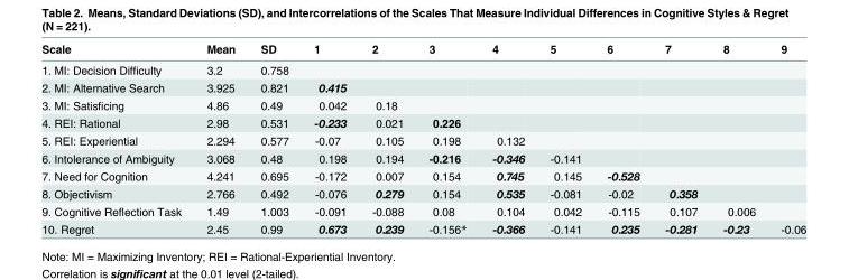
<table><thead><tr><td>Scale</td><td>Mean</td><td>SD</td><td>1</td><td>2</td><td>3</td><td>4</td><td>5</td><td>6</td><td>7</td><td>8</td><td>9</td></tr></thead><tbody><tr><td>1. MI: Decision Difficulty</td><td>3.2</td><td>0.758</td><td></td><td></td><td></td><td></td><td></td><td></td><td></td><td></td><td></td></tr><tr><td>2. MI: Alternative Search</td><td>3.925</td><td>0.821</td><td>0.415</td><td></td><td></td><td></td><td></td><td></td><td></td><td></td><td></td></tr><tr><td>3. MI: Satisficing</td><td>4.86</td><td>0.49</td><td>0.042</td><td>0.18</td><td></td><td></td><td></td><td></td><td></td><td></td><td></td></tr><tr><td>4. REI: Rational</td><td>2.98</td><td>0.531</td><td>-0.233</td><td>0.021</td><td>0.226</td><td></td><td></td><td></td><td></td><td></td><td></td></tr><tr><td>5. REI: Experiential</td><td>2.294</td><td>0.577</td><td>-0.07</td><td>0.105</td><td>0.198</td><td>0.132</td><td></td><td></td><td></td><td></td><td></td></tr><tr><td>6. Intolerance of Ambiguity</td><td>3.068</td><td>0.48</td><td>0.198</td><td>0.194</td><td>-0.216</td><td>-0.346</td><td>-0.141</td><td></td><td></td><td></td><td></td></tr><tr><td>7. Need for Cognition</td><td>4.241</td><td>0.695</td><td>-0.172</td><td>0.007</td><td>0.154</td><td>0.745</td><td>0.145</td><td>-0.528</td><td></td><td></td><td></td></tr><tr><td>8. Objectivism</td><td>2.766</td><td>0.492</td><td>-0.076</td><td>0.279</td><td>0.154</td><td>0.535</td><td>-0.081</td><td>-0.02</td><td>0.358</td><td></td><td></td></tr><tr><td>9. Cognitive Reflection Task</td><td>1.49</td><td>1.003</td><td>-0.091</td><td>-0.088</td><td>0.08</td><td>0.104</td><td>0.042</td><td>-0.115</td><td>0.107</td><td>0.006</td><td></td></tr><tr><td>10. Regret</td><td>2.45</td><td>0.99</td><td>0.673</td><td>0.239</td><td>-0.156*</td><td>-0.366</td><td>-0.141</td><td>0.235</td><td>-0.281</td><td>-0.23</td><td>-0.06</td></tr></tbody></table>